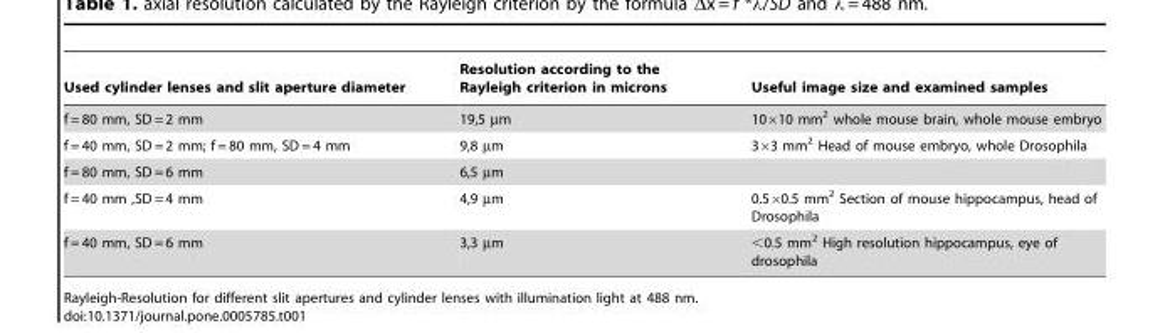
<table><thead><tr><td>Used cylinder lenses and slit aperture diameter</td><td>Resolution according to the Rayleigh criterion in microns</td><td>Useful image size and examined samples</td></tr></thead><tbody><tr><td>f = 80 mm, SD = 2 mm</td><td>19,5 µm</td><td>10×10 mm<sup>2</sup> whole mouse brain, whole mouse embryo</td></tr><tr><td>f = 40 mm, SD = 2 mm; f = 80 mm, SD = 4 mm</td><td>9,8 µm</td><td>3×3 mm<sup>2</sup> Head of mouse embryo, whole Drosophila</td></tr><tr><td>f = 80 mm, SD = 6 mm</td><td>6,5 µm</td><td></td></tr><tr><td>f = 40 mm ,SD = 4 mm</td><td>4,9 µm</td><td>0.5×0.5 mm<sup>2</sup> Section of mouse hippocampus, head of Drosophila</td></tr><tr><td>f = 40 mm, SD = 6 mm</td><td>3,3 µm</td><td>&lt;0.5 mm<sup>2</sup> High resolution hippocampus, eye of drosophila</td></tr></tbody></table>